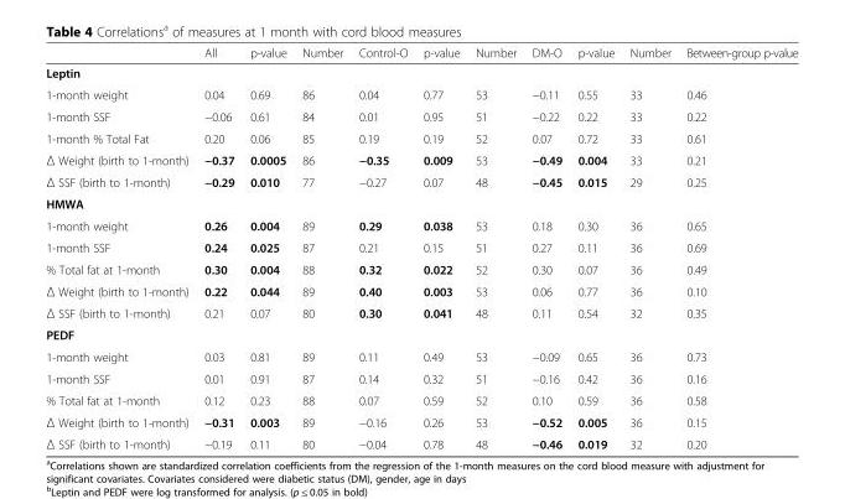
<table><thead><tr><td></td><td>All</td><td>p-value</td><td>Number</td><td>Control-O</td><td>p-value</td><td>Number</td><td>DM-O</td><td>p-value</td><td>Number</td><td>Between-group p-value</td></tr></thead><tbody><tr><td colspan="11">Leptin</td></tr><tr><td>1-month weight</td><td>0.04</td><td>0.69</td><td>86</td><td>0.04</td><td>0.77</td><td>53</td><td>−0.11</td><td>0.55</td><td>33</td><td>0.46</td></tr><tr><td>1-month SSF</td><td>−0.06</td><td>0.61</td><td>84</td><td>0.01</td><td>0.95</td><td>51</td><td>−0.22</td><td>0.22</td><td>33</td><td>0.22</td></tr><tr><td>1-month % Total Fat</td><td>0.20</td><td>0.06</td><td>85</td><td>0.19</td><td>0.19</td><td>52</td><td>0.07</td><td>0.72</td><td>33</td><td>0.61</td></tr><tr><td>Δ Weight (birth to 1-month)</td><td>−0.37</td><td>0.0005</td><td>86</td><td>−0.35</td><td>0.009</td><td>53</td><td>−0.49</td><td>0.004</td><td>33</td><td>0.21</td></tr><tr><td>Δ SSF (birth to 1-month)</td><td>−0.29</td><td>0.010</td><td>77</td><td>−0.27</td><td>0.07</td><td>48</td><td>−0.45</td><td>0.015</td><td>29</td><td>0.25</td></tr><tr><td colspan="11">HMWA</td></tr><tr><td>1-month weight</td><td>0.26</td><td>0.004</td><td>89</td><td>0.29</td><td>0.038</td><td>53</td><td>0.18</td><td>0.30</td><td>36</td><td>0.65</td></tr><tr><td>1-month SSF</td><td>0.24</td><td>0.025</td><td>87</td><td>0.21</td><td>0.15</td><td>51</td><td>0.27</td><td>0.11</td><td>36</td><td>0.69</td></tr><tr><td>% Total fat at 1-month</td><td>0.30</td><td>0.004</td><td>88</td><td>0.32</td><td>0.022</td><td>52</td><td>0.30</td><td>0.07</td><td>36</td><td>0.49</td></tr><tr><td>Δ Weight (birth to 1-month)</td><td>0.22</td><td>0.044</td><td>89</td><td>0.40</td><td>0.003</td><td>53</td><td>0.06</td><td>0.77</td><td>36</td><td>0.10</td></tr><tr><td>Δ SSF (birth to 1-month)</td><td>0.21</td><td>0.07</td><td>80</td><td>0.30</td><td>0.041</td><td>48</td><td>0.11</td><td>0.54</td><td>32</td><td>0.35</td></tr><tr><td colspan="11">PEDF</td></tr><tr><td>1-month weight</td><td>0.03</td><td>0.81</td><td>89</td><td>0.11</td><td>0.49</td><td>53</td><td>−0.09</td><td>0.65</td><td>36</td><td>0.73</td></tr><tr><td>1-month SSF</td><td>0.01</td><td>0.91</td><td>87</td><td>0.14</td><td>0.32</td><td>51</td><td>−0.16</td><td>0.42</td><td>36</td><td>0.16</td></tr><tr><td>% Total fat at 1-month</td><td>0.12</td><td>0.23</td><td>88</td><td>0.07</td><td>0.59</td><td>52</td><td>0.10</td><td>0.59</td><td>36</td><td>0.58</td></tr><tr><td>Δ Weight (birth to 1-month)</td><td>−0.31</td><td>0.003</td><td>89</td><td>−0.16</td><td>0.26</td><td>53</td><td>−0.52</td><td>0.005</td><td>36</td><td>0.15</td></tr><tr><td>Δ SSF (birth to 1-month)</td><td>−0.19</td><td>0.11</td><td>80</td><td>−0.04</td><td>0.78</td><td>48</td><td>−0.46</td><td>0.019</td><td>32</td><td>0.20</td></tr></tbody></table>